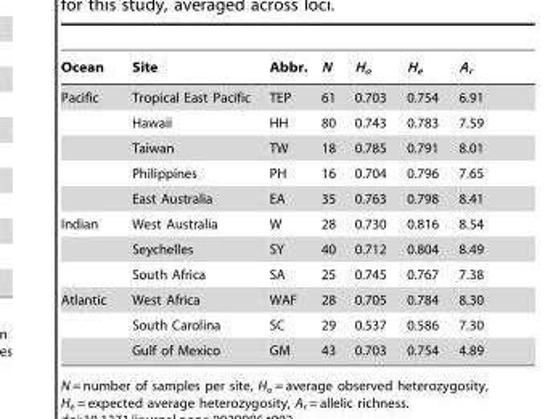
<table><thead><tr><td>Ocean</td><td>Site</td><td>Abbr.</td><td>N</td><td>H<sub>o</sub></td><td>H<sub>e</sub></td><td>A<sub>r</sub></td></tr></thead><tbody><tr><td rowspan="5">Pacific</td><td>Tropical East Pacific</td><td>TEP</td><td>61</td><td>0.703</td><td>0.754</td><td>6.91</td></tr><tr><td>Hawaii</td><td>HH</td><td>80</td><td>0.743</td><td>0.783</td><td>7.59</td></tr><tr><td>Taiwan</td><td>TW</td><td>18</td><td>0.785</td><td>0.791</td><td>8.01</td></tr><tr><td>Philippines</td><td>PH</td><td>16</td><td>0.704</td><td>0.796</td><td>7.65</td></tr><tr><td>East Australia</td><td>EA</td><td>35</td><td>0.763</td><td>0.798</td><td>8.41</td></tr><tr><td rowspan="3">Indian</td><td>West Australia</td><td>W</td><td>28</td><td>0.730</td><td>0.816</td><td>8.54</td></tr><tr><td>Seychelles</td><td>SY</td><td>40</td><td>0.712</td><td>0.804</td><td>8.49</td></tr><tr><td>South Africa</td><td>SA</td><td>25</td><td>0.745</td><td>0.767</td><td>7.38</td></tr><tr><td rowspan="3">Atlantic</td><td>West Africa</td><td>WAF</td><td>28</td><td>0.705</td><td>0.784</td><td>8.30</td></tr><tr><td>South Carolina</td><td>SC</td><td>29</td><td>0.537</td><td>0.586</td><td>7.30</td></tr><tr><td>Gulf of Mexico</td><td>GM</td><td>43</td><td>0.703</td><td>0.754</td><td>4.89</td></tr></tbody></table>